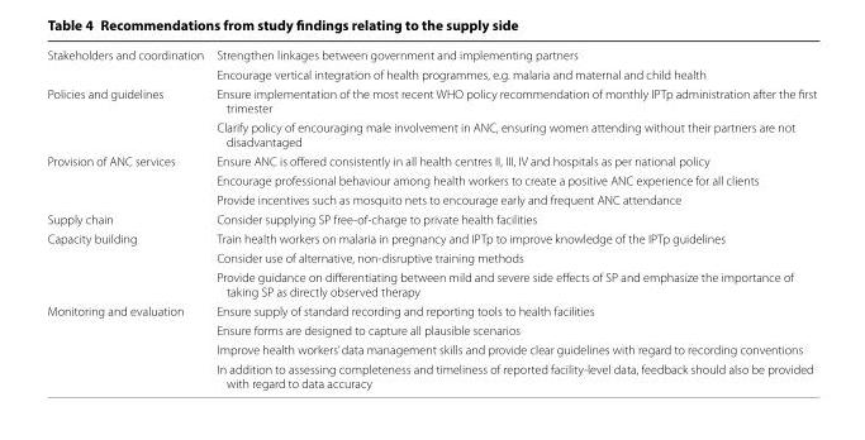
<table><tbody><tr><td rowspan="2">Stakeholders and coordination</td><td>Strengthen linkages between government and implementing partners</td></tr><tr><td>Encourage vertical integration of health programmes, e.g. malaria and maternal and child health</td></tr><tr><td rowspan="2">Policies and guidelines</td><td>Ensure implementation of the most recent WHO policy recommendation of monthly IPTp administration after the first trimester</td></tr><tr><td>Clarify policy of encouraging male involvement in ANC, ensuring women attending without their partners are not disadvantaged</td></tr><tr><td rowspan="3">Provision of ANC services</td><td>Ensure ANC is offered consistently in all health centres II, III, IV and hospitals as per national policy</td></tr><tr><td>Encourage professional behaviour among health workers to create a positive ANC experience for all clients</td></tr><tr><td>Provide incentives such as mosquito nets to encourage early and frequent ANC attendance</td></tr><tr><td>Supply chain</td><td>Consider supplying SP free-of-charge to private health facilities</td></tr><tr><td rowspan="3">Capacity building</td><td>Train health workers on malaria in pregnancy and IPTp to improve knowledge of the IPTp guidelines</td></tr><tr><td>Consider use of alternative, non-disruptive training methods</td></tr><tr><td>Provide guidance on differentiating between mild and severe side effects of SP and emphasize the importance of taking SP as directly observed therapy</td></tr><tr><td rowspan="4">Monitoring and evaluation</td><td>Ensure supply of standard recording and reporting tools to health facilities</td></tr><tr><td>Ensure forms are designed to capture all plausible scenarios</td></tr><tr><td>Improve health workers’ data management skills and provide clear guidelines with regard to recording conventions</td></tr><tr><td>In addition to assessing completeness and timeliness of reported facility-level data, feedback should also be provided with regard to data accuracy</td></tr></tbody></table>